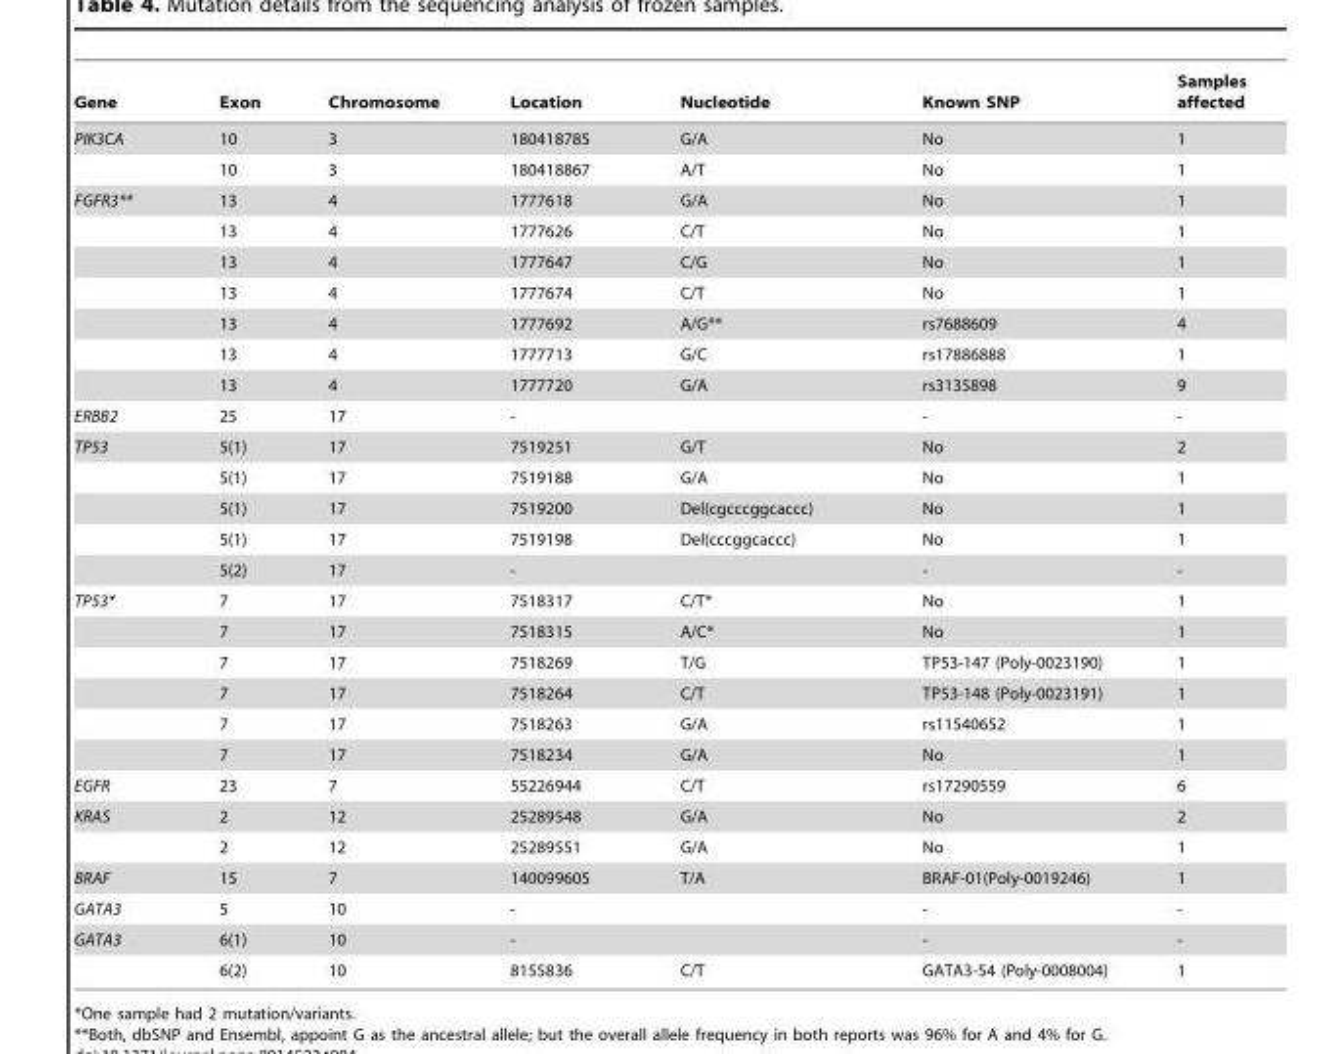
<table><thead><tr><td>Gene</td><td>Exon</td><td>Chromosome</td><td>Location</td><td>Nucleotide</td><td>Known SNP</td><td>Samples affected</td></tr></thead><tbody><tr><td rowspan="2">PIK3CA</td><td>10</td><td>3</td><td>180418785</td><td>G/A</td><td>No</td><td>1</td></tr><tr><td>10</td><td>3</td><td>180418867</td><td>A/T</td><td>No</td><td>1</td></tr><tr><td rowspan="7">FGFR3**</td><td>13</td><td>4</td><td>1777618</td><td>G/A</td><td>No</td><td>1</td></tr><tr><td>13</td><td>4</td><td>1777626</td><td>C/T</td><td>No</td><td>1</td></tr><tr><td>13</td><td>4</td><td>1777647</td><td>C/G</td><td>No</td><td>1</td></tr><tr><td>13</td><td>4</td><td>1777674</td><td>C/T</td><td>No</td><td>1</td></tr><tr><td>13</td><td>4</td><td>1777692</td><td>A/G**</td><td>rs7688609</td><td>4</td></tr><tr><td>13</td><td>4</td><td>1777713</td><td>G/C</td><td>rs17886888</td><td>1</td></tr><tr><td>13</td><td>4</td><td>1777720</td><td>G/A</td><td>rs3135898</td><td>9</td></tr><tr><td>ERBB2</td><td>25</td><td>17</td><td>-</td><td></td><td>-</td><td>-</td></tr><tr><td rowspan="5">TP53</td><td>5(1)</td><td>17</td><td>7519251</td><td>G/T</td><td>No</td><td>2</td></tr><tr><td>5(1)</td><td>17</td><td>7519188</td><td>G/A</td><td>No</td><td>1</td></tr><tr><td>5(1)</td><td>17</td><td>7519200</td><td>Del(cgcccggcaccc)</td><td>No</td><td>1</td></tr><tr><td>5(1)</td><td>17</td><td>7519198</td><td>Del(cccggcaccc)</td><td>No</td><td>1</td></tr><tr><td>5(2)</td><td>17</td><td>-</td><td></td><td>-</td><td>-</td></tr><tr><td rowspan="6">TP53*</td><td>7</td><td>17</td><td>7518317</td><td>C/T*</td><td>No</td><td>1</td></tr><tr><td>7</td><td>17</td><td>7518315</td><td>A/C*</td><td>No</td><td>1</td></tr><tr><td>7</td><td>17</td><td>7518269</td><td>T/G</td><td>TP53-147 (Poly-0023190)</td><td>1</td></tr><tr><td>7</td><td>17</td><td>7518264</td><td>C/T</td><td>TP53-148 (Poly-0023191)</td><td>1</td></tr><tr><td>7</td><td>17</td><td>7518263</td><td>G/A</td><td>rs11540652</td><td>1</td></tr><tr><td>7</td><td>17</td><td>7518234</td><td>G/A</td><td>No</td><td>1</td></tr><tr><td>EGFR</td><td>23</td><td>7</td><td>55226944</td><td>C/T</td><td>rs17290559</td><td>6</td></tr><tr><td rowspan="2">KRAS</td><td>2</td><td>12</td><td>25289548</td><td>G/A</td><td>No</td><td>2</td></tr><tr><td>2</td><td>12</td><td>25289551</td><td>G/A</td><td>No</td><td>1</td></tr><tr><td>BRAF</td><td>15</td><td>7</td><td>140099605</td><td>T/A</td><td>BRAF-01(Poly-0019246)</td><td>1</td></tr><tr><td>GATA3</td><td>5</td><td>10</td><td>-</td><td></td><td>-</td><td>-</td></tr><tr><td rowspan="2">GATA3</td><td>6(1)</td><td>10</td><td>-</td><td></td><td>-</td><td>-</td></tr><tr><td>6(2)</td><td>10</td><td>8155836</td><td>C/T</td><td>GATA3-54 (Poly-0008004)</td><td>1</td></tr></tbody></table>